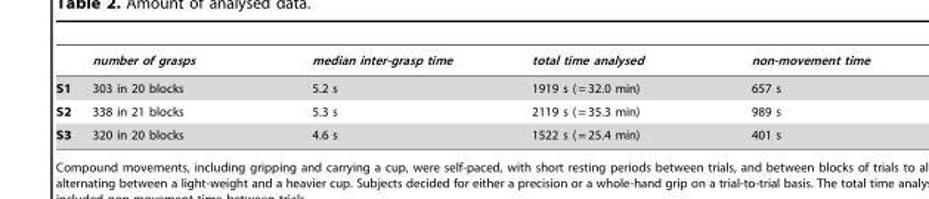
<table><thead><tr><td></td><td>number of grasps</td><td>median inter-grasp time</td><td>total time analysed</td><td>non-movement time</td></tr></thead><tbody><tr><td>S1</td><td>303 in 20 blocks</td><td>5.2 s</td><td>1919 s ( = 32.0 min)</td><td>657 s</td></tr><tr><td>S2</td><td>338 in 21 blocks</td><td>5.3 s</td><td>2119 s ( = 35.3 min)</td><td>989 s</td></tr><tr><td>S3</td><td>320 in 20 blocks</td><td>4.6 s</td><td>1522 s ( = 25.4 min)</td><td>401 s</td></tr></tbody></table>